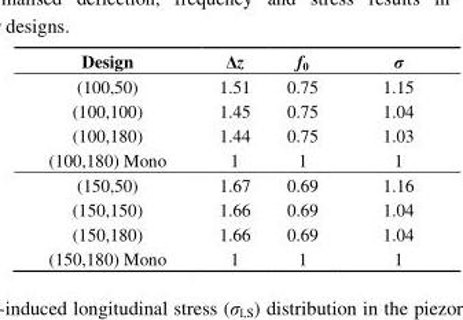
<table><thead><tr><td>Design</td><td>Δz</td><td>f<sub>0</sub></td><td>σ</td></tr></thead><tbody><tr><td>(100,50)</td><td>1.51</td><td>0.75</td><td>1.15</td></tr><tr><td>(100,100)</td><td>1.45</td><td>0.75</td><td>1.04</td></tr><tr><td>(100,180)</td><td>1.44</td><td>0.75</td><td>1.03</td></tr><tr><td>(100,180) Mono</td><td>1</td><td>1</td><td>1</td></tr><tr><td>(150,50)</td><td>1.67</td><td>0.69</td><td>1.16</td></tr><tr><td>(150,150)</td><td>1.66</td><td>0.69</td><td>1.04</td></tr><tr><td>(150,180)</td><td>1.66</td><td>0.69</td><td>1.04</td></tr><tr><td>(150,180) Mono</td><td>1</td><td>1</td><td>1</td></tr></tbody></table>